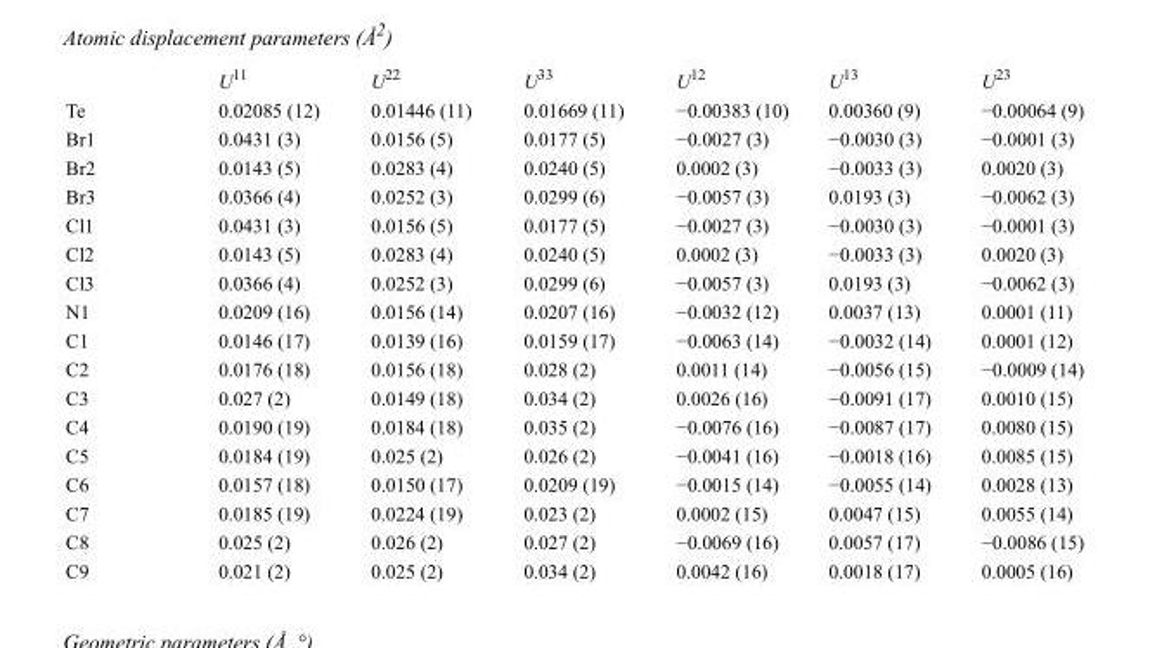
<table><thead><tr><td></td><td>U<sup>11</sup></td><td>U<sup>22</sup></td><td>U<sup>33</sup></td><td>U<sup>12</sup></td><td>U<sup>13</sup></td><td>U<sup>23</sup></td></tr></thead><tbody><tr><td>Te</td><td>0.02085 (12)</td><td>0.01446 (11)</td><td>0.01669 (11)</td><td>−0.00383 (10)</td><td>0.00360 (9)</td><td>−0.00064 (9)</td></tr><tr><td>Br1</td><td>0.0431 (3)</td><td>0.0156 (5)</td><td>0.0177 (5)</td><td>−0.0027 (3)</td><td>−0.0030 (3)</td><td>−0.0001 (3)</td></tr><tr><td>Br2</td><td>0.0143 (5)</td><td>0.0283 (4)</td><td>0.0240 (5)</td><td>0.0002 (3)</td><td>−0.0033 (3)</td><td>0.0020 (3)</td></tr><tr><td>Br3</td><td>0.0366 (4)</td><td>0.0252 (3)</td><td>0.0299 (6)</td><td>−0.0057 (3)</td><td>0.0193 (3)</td><td>−0.0062 (3)</td></tr><tr><td>Cl1</td><td>0.0431 (3)</td><td>0.0156 (5)</td><td>0.0177 (5)</td><td>−0.0027 (3)</td><td>−0.0030 (3)</td><td>−0.0001 (3)</td></tr><tr><td>Cl2</td><td>0.0143 (5)</td><td>0.0283 (4)</td><td>0.0240 (5)</td><td>0.0002 (3)</td><td>−0.0033 (3)</td><td>0.0020 (3)</td></tr><tr><td>Cl3</td><td>0.0366 (4)</td><td>0.0252 (3)</td><td>0.0299 (6)</td><td>−0.0057 (3)</td><td>0.0193 (3)</td><td>−0.0062 (3)</td></tr><tr><td>N1</td><td>0.0209 (16)</td><td>0.0156 (14)</td><td>0.0207 (16)</td><td>−0.0032 (12)</td><td>0.0037 (13)</td><td>0.0001 (11)</td></tr><tr><td>C1</td><td>0.0146 (17)</td><td>0.0139 (16)</td><td>0.0159 (17)</td><td>−0.0063 (14)</td><td>−0.0032 (14)</td><td>0.0001 (12)</td></tr><tr><td>C2</td><td>0.0176 (18)</td><td>0.0156 (18)</td><td>0.028 (2)</td><td>0.0011 (14)</td><td>−0.0056 (15)</td><td>−0.0009 (14)</td></tr><tr><td>C3</td><td>0.027 (2)</td><td>0.0149 (18)</td><td>0.034 (2)</td><td>0.0026 (16)</td><td>−0.0091 (17)</td><td>0.0010 (15)</td></tr><tr><td>C4</td><td>0.0190 (19)</td><td>0.0184 (18)</td><td>0.035 (2)</td><td>−0.0076 (16)</td><td>−0.0087 (17)</td><td>0.0080 (15)</td></tr><tr><td>C5</td><td>0.0184 (19)</td><td>0.025 (2)</td><td>0.026 (2)</td><td>−0.0041 (16)</td><td>−0.0018 (16)</td><td>0.0085 (15)</td></tr><tr><td>C6</td><td>0.0157 (18)</td><td>0.0150 (17)</td><td>0.0209 (19)</td><td>−0.0015 (14)</td><td>−0.0055 (14)</td><td>0.0028 (13)</td></tr><tr><td>C7</td><td>0.0185 (19)</td><td>0.0224 (19)</td><td>0.023 (2)</td><td>0.0002 (15)</td><td>0.0047 (15)</td><td>0.0055 (14)</td></tr><tr><td>C8</td><td>0.025 (2)</td><td>0.026 (2)</td><td>0.027 (2)</td><td>−0.0069 (16)</td><td>0.0057 (17)</td><td>−0.0086 (15)</td></tr><tr><td>C9</td><td>0.021 (2)</td><td>0.025 (2)</td><td>0.034 (2)</td><td>0.0042 (16)</td><td>0.0018 (17)</td><td>0.0005 (16)</td></tr></tbody></table>